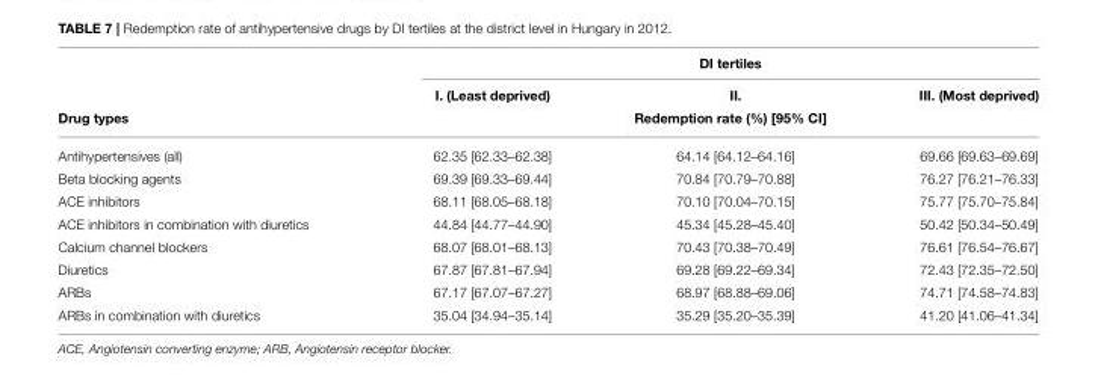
<table><thead><tr><td rowspan="3">Drug types</td><td colspan="3">DI tertiles</td></tr><tr><td>I. (Least deprived)</td><td>II.</td><td>III. (Most deprived)</td></tr><tr><td colspan="3">Redemption rate (%) [95% CI]</td></tr></thead><tbody><tr><td>Antihypertensives (all)</td><td>62.35 [62.33–62.38]</td><td>64.14 [64.12–64.16]</td><td>69.66 [69.63–69.69]</td></tr><tr><td>Beta blocking agents</td><td>69.39 [69.33–69.44]</td><td>70.84 [70.79–70.88]</td><td>76.27 [76.21–76.33]</td></tr><tr><td>ACE inhibitors</td><td>68.11 [68.05–68.18]</td><td>70.10 [70.04–70.15]</td><td>75.77 [75.70–75.84]</td></tr><tr><td>ACE inhibitors in combination with diuretics</td><td>44.84 [44.77–44.90]</td><td>45.34 [45.28–45.40]</td><td>50.42 [50.34–50.49]</td></tr><tr><td>Calcium channel blockers</td><td>68.07 [68.01–68.13]</td><td>70.43 [70.38–70.49]</td><td>76.61 [76.54–76.67]</td></tr><tr><td>Diuretics</td><td>67.87 [67.81–67.94]</td><td>69.28 [69.22–69.34]</td><td>72.43 [72.35–72.50]</td></tr><tr><td>ARBs</td><td>67.17 [67.07–67.27]</td><td>68.97 [68.88–69.06]</td><td>74.71 [74.58–74.83]</td></tr><tr><td>ARBs in combination with diuretics</td><td>35.04 [34.94–35.14]</td><td>35.29 [35.20–35.39]</td><td>41.20 [41.06–41.34]</td></tr></tbody></table>